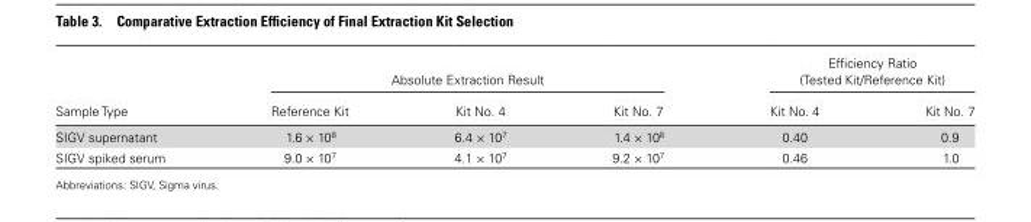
<table><thead><tr><td rowspan="2">Sample Type</td><td colspan="3">Absolute Extraction Result</td><td colspan="2">Efficiency Ratio (Tested Kit/Reference Kit)</td></tr><tr><td>Reference Kit</td><td>Kit No. 4</td><td>Kit No. 7</td><td>Kit No. 4</td><td>Kit No. 7</td></tr></thead><tbody><tr><td>SIGV supernatant</td><td>1.6 × 10<sup>8</sup></td><td>6.4 × 10<sup>7</sup></td><td>1.4 × 10<sup>8</sup></td><td>0.40</td><td>0.9</td></tr><tr><td>SIGV spiked serum</td><td>9.0 × 10<sup>7</sup></td><td>4.1 × 10<sup>7</sup></td><td>9.2 × 10<sup>7</sup></td><td>0.46</td><td>1.0</td></tr></tbody></table>